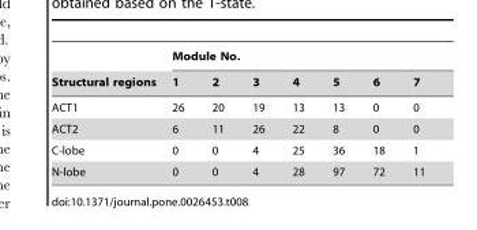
<table><thead><tr><td rowspan="2">Structural regions</td><td colspan="7">Module No.</td></tr><tr><td>1</td><td>2</td><td>3</td><td>4</td><td>5</td><td>6</td><td>7</td></tr></thead><tbody><tr><td>ACT1</td><td>26</td><td>20</td><td>19</td><td>13</td><td>13</td><td>0</td><td>0</td></tr><tr><td>ACT2</td><td>6</td><td>11</td><td>26</td><td>22</td><td>8</td><td>0</td><td>0</td></tr><tr><td>C-lobe</td><td>0</td><td>0</td><td>4</td><td>25</td><td>36</td><td>18</td><td>1</td></tr><tr><td>N-lobe</td><td>0</td><td>0</td><td>4</td><td>28</td><td>97</td><td>72</td><td>11</td></tr></tbody></table>